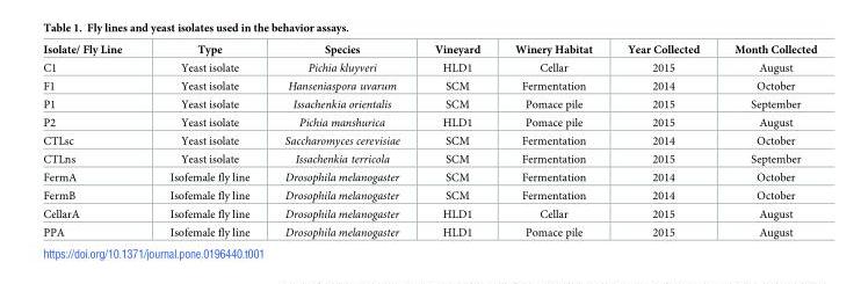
<table><thead><tr><td>Isolate/ Fly Line</td><td>Type</td><td>Species</td><td>Vineyard</td><td>Winery Habitat</td><td>Year Collected</td><td>Month Collected</td></tr></thead><tbody><tr><td>C1</td><td>Yeast isolate</td><td>Pichia kluyveri</td><td>HLD1</td><td>Cellar</td><td>2015</td><td>August</td></tr><tr><td>F1</td><td>Yeast isolate</td><td>Hanseniaspora uvarum</td><td>SCM</td><td>Fermentation</td><td>2014</td><td>October</td></tr><tr><td>P1</td><td>Yeast isolate</td><td>Issachenkia orientalis</td><td>SCM</td><td>Pomace pile</td><td>2015</td><td>September</td></tr><tr><td>P2</td><td>Yeast isolate</td><td>Pichia manshurica</td><td>HLD1</td><td>Pomace pile</td><td>2015</td><td>August</td></tr><tr><td>CTLsc</td><td>Yeast isolate</td><td>Saccharomyces cerevisiae</td><td>SCM</td><td>Fermentation</td><td>2014</td><td>October</td></tr><tr><td>CTLns</td><td>Yeast isolate</td><td>Issachenkia terricola</td><td>SCM</td><td>Fermentation</td><td>2015</td><td>September</td></tr><tr><td>FermA</td><td>Isofemale fly line</td><td>Drosophila melanogaster</td><td>SCM</td><td>Fermentation</td><td>2014</td><td>October</td></tr><tr><td>FermB</td><td>Isofemale fly line</td><td>Drosophila melanogaster</td><td>SCM</td><td>Fermentation</td><td>2014</td><td>October</td></tr><tr><td>CellarA</td><td>Isofemale fly line</td><td>Drosophila melanogaster</td><td>HLD1</td><td>Cellar</td><td>2015</td><td>August</td></tr><tr><td>PPA</td><td>Isofemale fly line</td><td>Drosophila melanogaster</td><td>HLD1</td><td>Pomace pile</td><td>2015</td><td>August</td></tr></tbody></table>